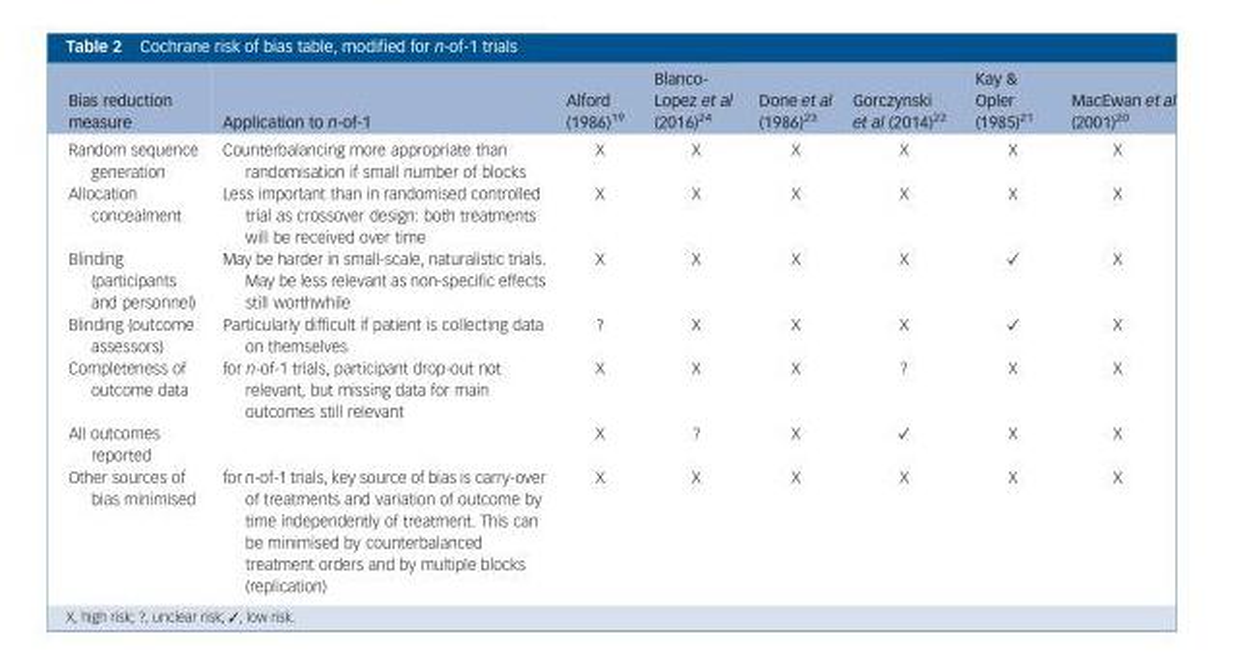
<table><thead><tr><td>Bias reduction measure</td><td>Application to n-of-1</td><td>Alford (1986)<sup>19</sup></td><td>Blanco- Lopez et al (2016)<sup>24</sup></td><td>Done et al (1986)<sup>23</sup></td><td>Gorczynski et al (2014)<sup>22</sup></td><td>Kay &amp; Opler (1985)<sup>21</sup></td><td>MacEwan et al (2001)<sup>20</sup></td></tr></thead><tbody><tr><td>Random sequence generation</td><td>Counterbalancing more appropriate than randomisation if small number of blocks</td><td>X</td><td>X</td><td>X</td><td>X</td><td>X</td><td>X</td></tr><tr><td>Allocation concealment</td><td>Less important than in randomised controlled trial as crossover design: both treatments will be received over time</td><td>X</td><td>X</td><td>X</td><td>X</td><td>X</td><td>X</td></tr><tr><td>Blinding (participants and personnel)</td><td>May be harder in small-scale, naturalistic trials. May be less relevant as non-specific effects still worthwhile</td><td>X</td><td>X</td><td>X</td><td>X</td><td>✓</td><td>X</td></tr><tr><td>Blinding (outcome assessors)</td><td>Particularly difficult if patient is collecting data on themselves</td><td>?</td><td>X</td><td>X</td><td>X</td><td>✓</td><td>X</td></tr><tr><td>Completeness of outcome data</td><td>for n-of-1 trials, participant drop-out not relevant, but missing data for main outcomes still relevant</td><td>X</td><td>X</td><td>X</td><td>?</td><td>X</td><td>X</td></tr><tr><td>All outcomes reported</td><td></td><td>X</td><td>?</td><td>X</td><td>✓</td><td>X</td><td>X</td></tr><tr><td>Other sources of bias minimised</td><td>for n-of-1 trials, key source of bias is carry-over of treatments and variation of outcome by time independently of treatment. This can be minimised by counterbalanced treatment orders and by multiple blocks (replication)</td><td>X</td><td>X</td><td>X</td><td>X</td><td>X</td><td>X</td></tr></tbody></table>